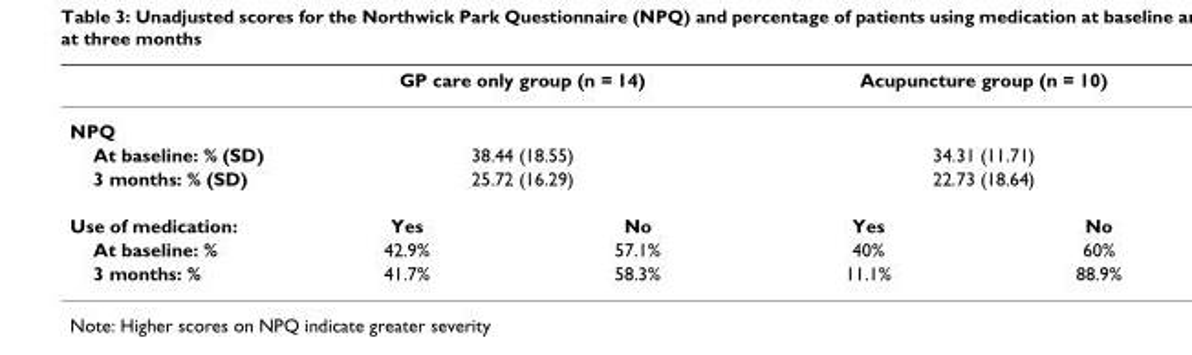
<table><thead><tr><td rowspan="2">NPQ</td><td colspan="2">GP care only group (n = 14)</td><td colspan="2">Acupuncture group (n = 10)</td></tr><tr><td></td><td></td><td></td><td></td></tr></thead><tbody><tr><td>At baseline: % (SD)</td><td colspan="2">38.44 (18.55)</td><td colspan="2">34.31 (11.71)</td></tr><tr><td>3 months: % (SD)</td><td colspan="2">25.72 (16.29)</td><td colspan="2">22.73 (18.64)</td></tr><tr><td>Use of medication:</td><td>Yes</td><td>No</td><td>Yes</td><td>No</td></tr><tr><td>At baseline: %</td><td>42.9%</td><td>57.1%</td><td>40%</td><td>60%</td></tr><tr><td>3 months: %</td><td>41.7%</td><td>58.3%</td><td>11.1%</td><td>88.9%</td></tr></tbody></table>